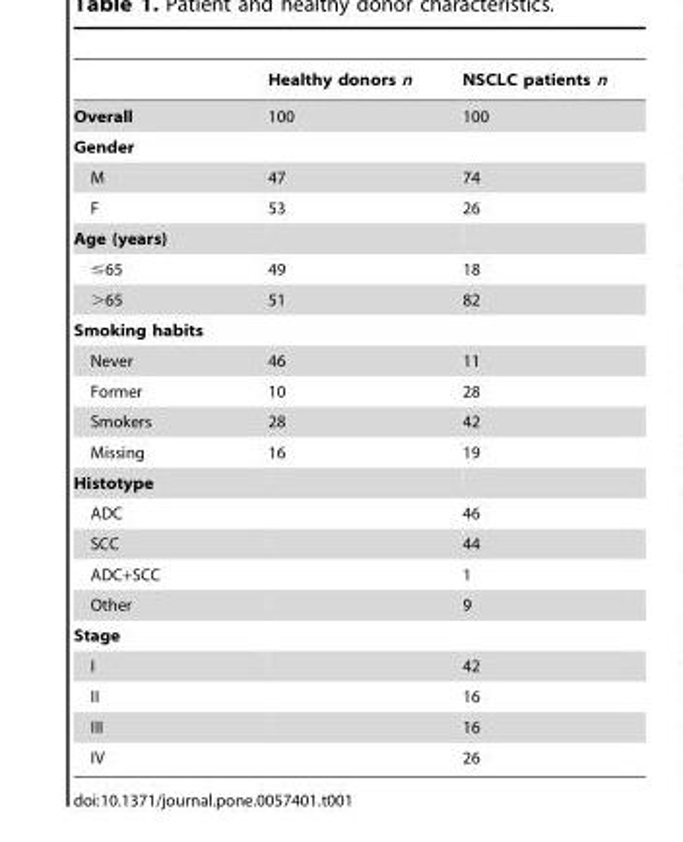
<table><thead><tr><td></td><td>Healthy donors n</td><td>NSCLC patients n</td></tr></thead><tbody><tr><td>Overall</td><td>100</td><td>100</td></tr><tr><td colspan="3">Gender</td></tr><tr><td>M</td><td>47</td><td>74</td></tr><tr><td>F</td><td>53</td><td>26</td></tr><tr><td colspan="3">Age (years)</td></tr><tr><td>≤65</td><td>49</td><td>18</td></tr><tr><td>&gt;65</td><td>51</td><td>82</td></tr><tr><td colspan="3">Smoking habits</td></tr><tr><td>Never</td><td>46</td><td>11</td></tr><tr><td>Former</td><td>10</td><td>28</td></tr><tr><td>Smokers</td><td>28</td><td>42</td></tr><tr><td>Missing</td><td>16</td><td>19</td></tr><tr><td colspan="3">Histotype</td></tr><tr><td>ADC</td><td></td><td>46</td></tr><tr><td>SCC</td><td></td><td>44</td></tr><tr><td>ADC+SCC</td><td></td><td>1</td></tr><tr><td>Other</td><td></td><td>9</td></tr><tr><td colspan="3">Stage</td></tr><tr><td>I</td><td></td><td>42</td></tr><tr><td>II</td><td></td><td>16</td></tr><tr><td>III</td><td></td><td>16</td></tr><tr><td>IV</td><td></td><td>26</td></tr></tbody></table>